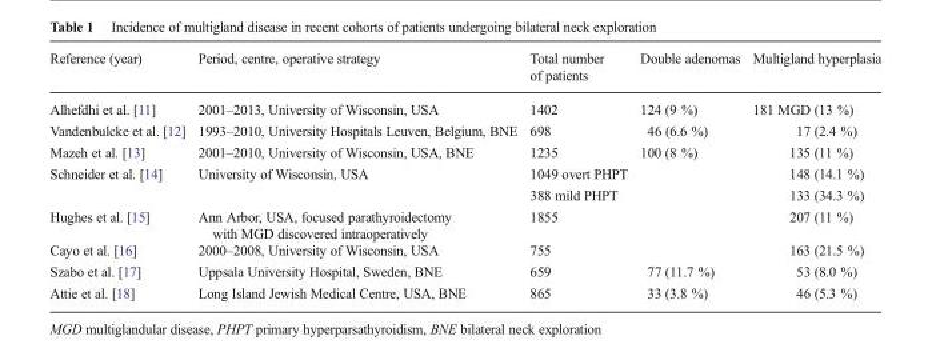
<table><thead><tr><td>Reference (year)</td><td>Period, centre, operative strategy</td><td>Total number of patients</td><td>Double adenomas</td><td>Multigland hyperplasia</td></tr></thead><tbody><tr><td>Alhefdhi et al. [11]</td><td>2001–2013, University of Wisconsin, USA</td><td>1402</td><td>124 (9 %)</td><td>181 MGD (13 %)</td></tr><tr><td>Vandenbulcke et al. [12]</td><td>1993–2010, University Hospitals Leuven, Belgium, BNE</td><td>698</td><td>46 (6.6 %)</td><td>17 (2.4 %)</td></tr><tr><td>Mazeh et al. [13]</td><td>2001–2010, University of Wisconsin, USA, BNE</td><td>1235</td><td>100 (8 %)</td><td>135 (11 %)</td></tr><tr><td rowspan="2">Schneider et al. [14]</td><td rowspan="2">University of Wisconsin, USA</td><td>1049 overt PHPT</td><td rowspan="2"></td><td>148 (14.1 %)</td></tr><tr><td>388 mild PHPT</td><td>133 (34.3 %)</td></tr><tr><td>Hughes et al. [15]</td><td>Ann Arbor, USA, focused parathyroidectomy with MGD discovered intraoperatively</td><td>1855</td><td></td><td>207 (11 %)</td></tr><tr><td>Cayo et al. [16]</td><td>2000–2008, University of Wisconsin, USA</td><td>755</td><td></td><td>163 (21.5 %)</td></tr><tr><td>Szabo et al. [17]</td><td>Uppsala University Hospital, Sweden, BNE</td><td>659</td><td>77 (11.7 %)</td><td>53 (8.0 %)</td></tr><tr><td>Attie et al. [18]</td><td>Long Island Jewish Medical Centre, USA, BNE</td><td>865</td><td>33 (3.8 %)</td><td>46 (5.3 %)</td></tr></tbody></table>